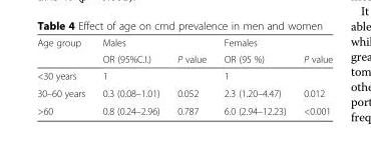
<table><thead><tr><td rowspan="2">Age group</td><td rowspan="2">Males OR (95%C.I.)</td><td rowspan="2">P value</td><td rowspan="2">Females OR (95 %)</td><td rowspan="2">P value</td></tr><tr></tr></thead><tbody><tr><td>&lt;30 years</td><td>1</td><td></td><td>1</td><td></td></tr><tr><td>30–60 years</td><td>0.3 (0.08–1.01)</td><td>0.052</td><td>2.3 (1.20–4.47)</td><td>0.012</td></tr><tr><td>&gt;60</td><td>0.8 (0.24–2.96)</td><td>0.787</td><td>6.0 (2.94–12.23)</td><td>&lt;0.001</td></tr></tbody></table>